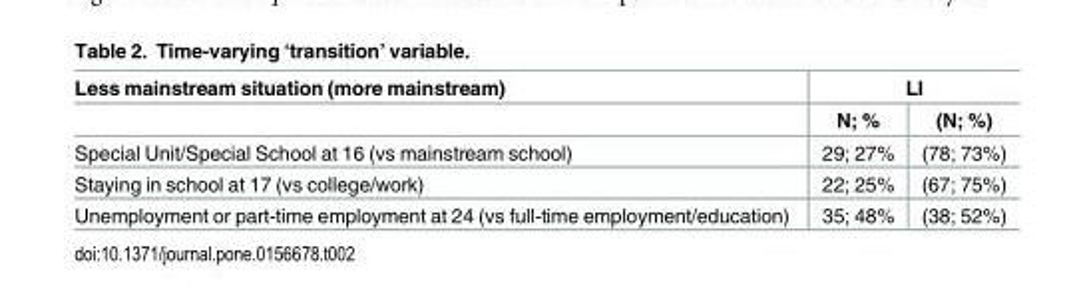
<table><thead><tr><td rowspan="2">Less mainstream situation (more mainstream)</td><td colspan="2">LI</td></tr><tr><td>N; %</td><td>(N; %)</td></tr></thead><tbody><tr><td>Special Unit/Special School at 16 (vs mainstream school)</td><td>29; 27%</td><td>(78; 73%)</td></tr><tr><td>Staying in school at 17 (vs college/work)</td><td>22; 25%</td><td>(67; 75%)</td></tr><tr><td>Unemployment or part-time employment at 24 (vs full-time employment/education)</td><td>35; 48%</td><td>(38; 52%)</td></tr></tbody></table>